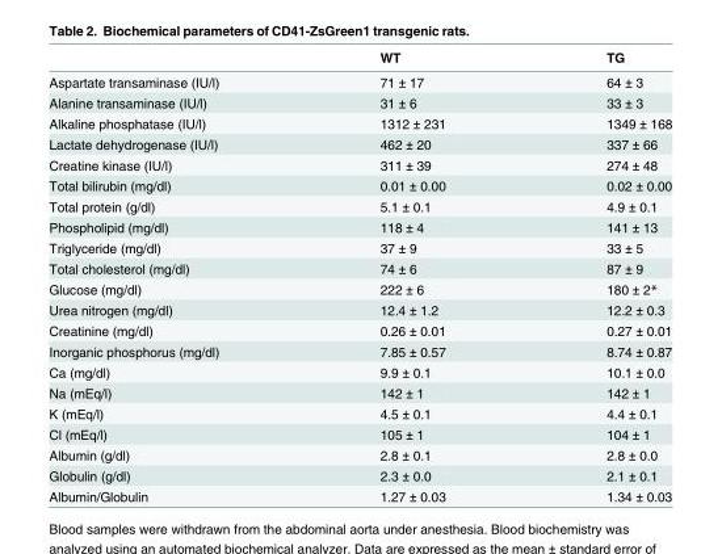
<table><thead><tr><td></td><td>WT</td><td>TG</td></tr></thead><tbody><tr><td>Aspartate transaminase (IU/l)</td><td>71 ± 17</td><td>64 ± 3</td></tr><tr><td>Alanine transaminase (IU/l)</td><td>31 ± 6</td><td>33 ± 3</td></tr><tr><td>Alkaline phosphatase (IU/l)</td><td>1312 ± 231</td><td>1349 ± 168</td></tr><tr><td>Lactate dehydrogenase (IU/l)</td><td>462 ± 20</td><td>337 ± 66</td></tr><tr><td>Creatine kinase (IU/l)</td><td>311 ± 39</td><td>274 ± 48</td></tr><tr><td>Total bilirubin (mg/dl)</td><td>0.01 ± 0.00</td><td>0.02 ± 0.00</td></tr><tr><td>Total protein (g/dl)</td><td>5.1 ± 0.1</td><td>4.9 ± 0.1</td></tr><tr><td>Phospholipid (mg/dl)</td><td>118 ± 4</td><td>141 ± 13</td></tr><tr><td>Triglyceride (mg/dl)</td><td>37 ± 9</td><td>33 ± 5</td></tr><tr><td>Total cholesterol (mg/dl)</td><td>74 ± 6</td><td>87 ± 9</td></tr><tr><td>Glucose (mg/dl)</td><td>222 ± 6</td><td>180 ± 2*</td></tr><tr><td>Urea nitrogen (mg/dl)</td><td>12.4 ± 1.2</td><td>12.2 ± 0.3</td></tr><tr><td>Creatinine (mg/dl)</td><td>0.26 ± 0.01</td><td>0.27 ± 0.01</td></tr><tr><td>Inorganic phosphorus (mg/dl)</td><td>7.85 ± 0.57</td><td>8.74 ± 0.87</td></tr><tr><td>Ca (mg/dl)</td><td>9.9 ± 0.1</td><td>10.1 ± 0.0</td></tr><tr><td>Na (mEq/l)</td><td>142 ± 1</td><td>142 ± 1</td></tr><tr><td>K (mEq/l)</td><td>4.5 ± 0.1</td><td>4.4 ± 0.1</td></tr><tr><td>Cl (mEq/l)</td><td>105 ± 1</td><td>104 ± 1</td></tr><tr><td>Albumin (g/dl)</td><td>2.8 ± 0.1</td><td>2.8 ± 0.0</td></tr><tr><td>Globulin (g/dl)</td><td>2.3 ± 0.0</td><td>2.1 ± 0.1</td></tr><tr><td>Albumin/Globulin</td><td>1.27 ± 0.03</td><td>1.34 ± 0.03</td></tr></tbody></table>